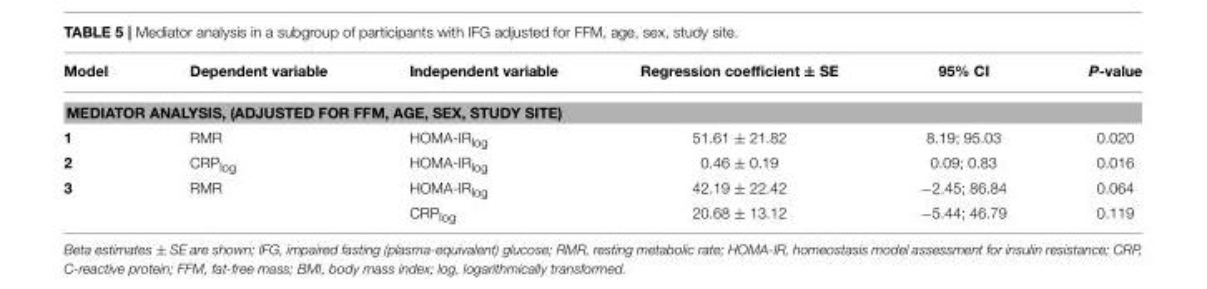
<table><thead><tr><td>Model</td><td>Dependent variable</td><td>Independent variable</td><td>Regression coefficient ± SE</td><td>95% CI</td><td>P-value</td></tr></thead><tbody><tr><td colspan="6">MEDIATOR ANALYSIS, (ADJUSTED FOR FFM, AGE, SEX, STUDY SITE)</td></tr><tr><td>1</td><td>RMR</td><td>HOMA-IR<sub>log</sub></td><td>51.61 ± 21.82</td><td>8.19; 95.03</td><td>0.020</td></tr><tr><td>2</td><td>CRP<sub>log</sub></td><td>HOMA-IR<sub>log</sub></td><td>0.46 ± 0.19</td><td>0.09; 0.83</td><td>0.016</td></tr><tr><td rowspan="2">3</td><td>RMR</td><td>HOMA-IR<sub>log</sub></td><td>42.19 ± 22.42</td><td>−2.45; 86.84</td><td>0.064</td></tr><tr><td></td><td>CRP<sub>log</sub></td><td>20.68 ± 13.12</td><td>−5.44; 46.79</td><td>0.119</td></tr></tbody></table>